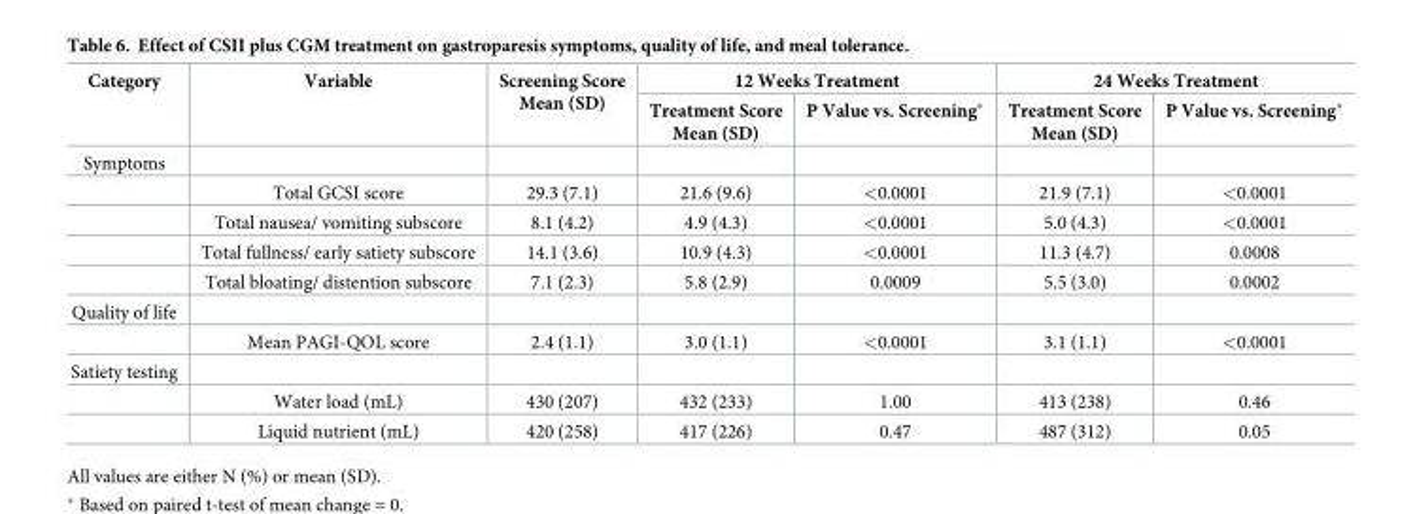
<table><thead><tr><td rowspan="2">Category</td><td rowspan="2">Variable</td><td rowspan="2">Screening Score Mean (SD)</td><td colspan="2">12 Weeks Treatment</td><td colspan="2">24 Weeks Treatment</td></tr><tr><td>Treatment Score Mean (SD)</td><td>P Value vs. Screening*</td><td>Treatment Score Mean (SD)</td><td>P Value vs. Screening*</td></tr></thead><tbody><tr><td colspan="7">Symptoms</td></tr><tr><td></td><td>Total GCSI score</td><td>29.3 (7.1)</td><td>21.6 (9.6)</td><td>&lt;0.0001</td><td>21.9 (7.1)</td><td>&lt;0.0001</td></tr><tr><td></td><td>Total nausea/ vomiting subscore</td><td>8.1 (4.2)</td><td>4.9 (4.3)</td><td>&lt;0.0001</td><td>5.0 (4.3)</td><td>&lt;0.0001</td></tr><tr><td></td><td>Total fullness/ early satiety subscore</td><td>14.1 (3.6)</td><td>10.9 (4.3)</td><td>&lt;0.0001</td><td>11.3 (4.7)</td><td>0.0008</td></tr><tr><td></td><td>Total bloating/ distention subscore</td><td>7.1 (2.3)</td><td>5.8 (2.9)</td><td>0.0009</td><td>5.5 (3.0)</td><td>0.0002</td></tr><tr><td colspan="7">Quality of life</td></tr><tr><td></td><td>Mean PAGI-QOL score</td><td>2.4 (1.1)</td><td>3.0 (1.1)</td><td>&lt;0.0001</td><td>3.1 (1.1)</td><td>&lt;0.0001</td></tr><tr><td colspan="7">Satiety testing</td></tr><tr><td></td><td>Water load (mL)</td><td>430 (207)</td><td>432 (233)</td><td>1.00</td><td>413 (238)</td><td>0.46</td></tr><tr><td></td><td>Liquid nutrient (mL)</td><td>420 (258)</td><td>417 (226)</td><td>0.47</td><td>487 (312)</td><td>0.05</td></tr></tbody></table>